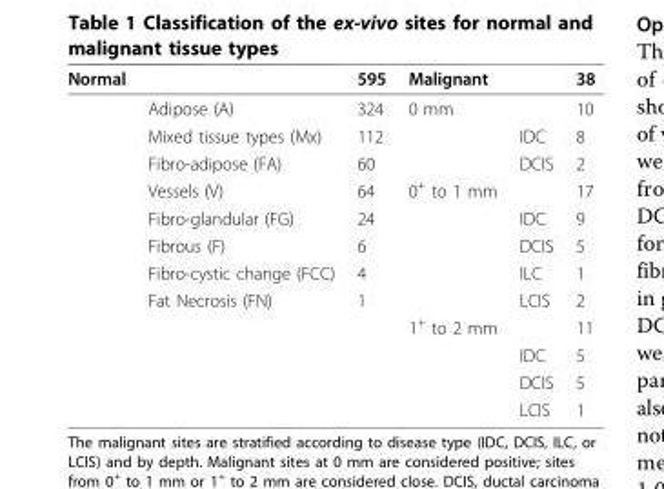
<table><thead><tr><td>Normal</td><td></td><td>595</td><td>Malignant</td><td></td><td>38</td></tr></thead><tbody><tr><td></td><td>Adipose (A)</td><td>324</td><td>0 mm</td><td></td><td>10</td></tr><tr><td></td><td>Mixed tissue types (Mx)</td><td>112</td><td></td><td>IDC</td><td>8</td></tr><tr><td></td><td>Fibro-adipose (FA)</td><td>60</td><td></td><td>DCIS</td><td>2</td></tr><tr><td></td><td>Vessels (V)</td><td>64</td><td>0<sup>+</sup> to 1 mm</td><td></td><td>17</td></tr><tr><td></td><td>Fibro-glandular (FG)</td><td>24</td><td></td><td>IDC</td><td>9</td></tr><tr><td></td><td>Fibrous (F)</td><td>6</td><td></td><td>DCIS</td><td>5</td></tr><tr><td></td><td>Fibro-cystic change (FCC)</td><td>4</td><td></td><td>ILC</td><td>1</td></tr><tr><td></td><td>Fat Necrosis (FN)</td><td>1</td><td></td><td>LCIS</td><td>2</td></tr><tr><td></td><td></td><td></td><td>1<sup>+</sup> to 2 mm</td><td></td><td>11</td></tr><tr><td></td><td></td><td></td><td></td><td>IDC</td><td>5</td></tr><tr><td></td><td></td><td></td><td></td><td>DCIS</td><td>5</td></tr><tr><td></td><td></td><td></td><td></td><td>LCIS</td><td>1</td></tr></tbody></table>